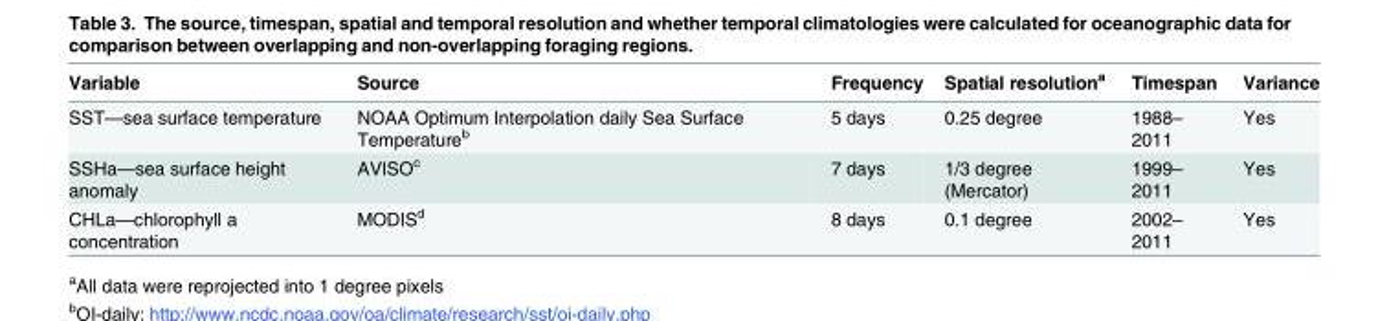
<table><thead><tr><td>Variable</td><td>Source</td><td>Frequency</td><td>Spatial resolution<sup>a</sup></td><td>Timespan</td><td>Variance</td></tr></thead><tbody><tr><td>SST—sea surface temperature</td><td>NOAA Optimum Interpolation daily Sea Surface Temperature<sup>b</sup></td><td>5 days</td><td>0.25 degree</td><td>1988– 2011</td><td>Yes</td></tr><tr><td>SSHa—sea surface height anomaly</td><td>AVISO<sup>c</sup></td><td>7 days</td><td>1/3 degree (Mercator)</td><td>1999– 2011</td><td>Yes</td></tr><tr><td>CHLa—chlorophyll a concentration</td><td>MODIS<sup>d</sup></td><td>8 days</td><td>0.1 degree</td><td>2002– 2011</td><td>Yes</td></tr></tbody></table>